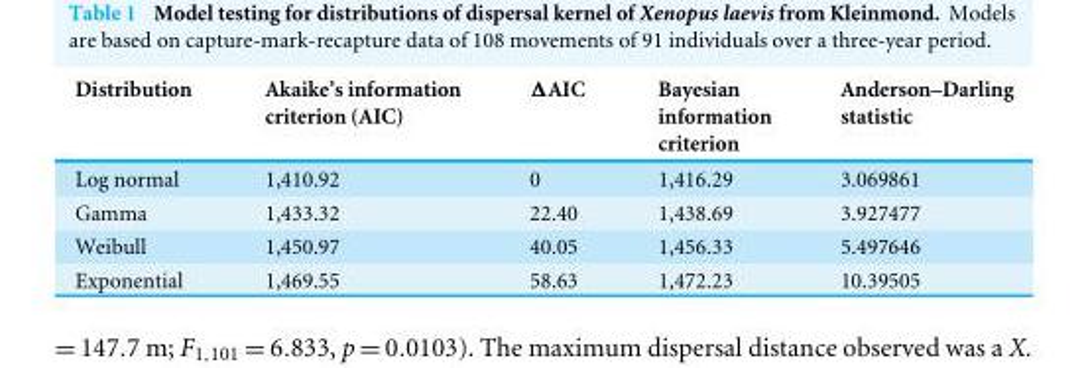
<table><thead><tr><td>Distribution</td><td>Akaike’s information criterion (AIC)</td><td>ΔAIC</td><td>Bayesian information criterion</td><td>Anderson–Darling statistic</td></tr></thead><tbody><tr><td>Log normal</td><td>1,410.92</td><td>0</td><td>1,416.29</td><td>3.069861</td></tr><tr><td>Gamma</td><td>1,433.32</td><td>22.40</td><td>1,438.69</td><td>3.927477</td></tr><tr><td>Weibull</td><td>1,450.97</td><td>40.05</td><td>1,456.33</td><td>5.497646</td></tr><tr><td>Exponential</td><td>1,469.55</td><td>58.63</td><td>1,472.23</td><td>10.39505</td></tr></tbody></table>